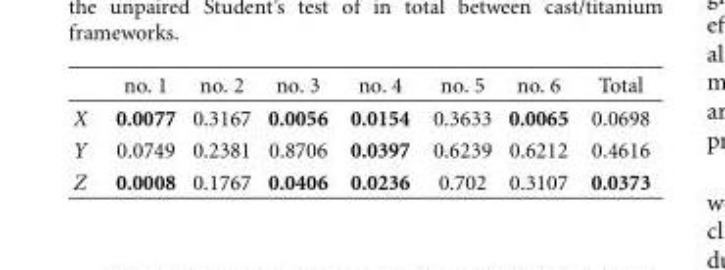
<table><thead><tr><td></td><td>no. 1</td><td>no. 2</td><td>no. 3</td><td>no. 4</td><td>no. 5</td><td>no. 6</td><td>Total</td></tr></thead><tbody><tr><td>X</td><td>0.0077</td><td>0.3167</td><td>0.0056</td><td>0.0154</td><td>0.3633</td><td>0.0065</td><td>0.0698</td></tr><tr><td>Y</td><td>0.0749</td><td>0.2381</td><td>0.8706</td><td>0.0397</td><td>0.6239</td><td>0.6212</td><td>0.4616</td></tr><tr><td>Z</td><td>0.0008</td><td>0.1767</td><td>0.0406</td><td>0.0236</td><td>0.702</td><td>0.3107</td><td>0.0373</td></tr></tbody></table>